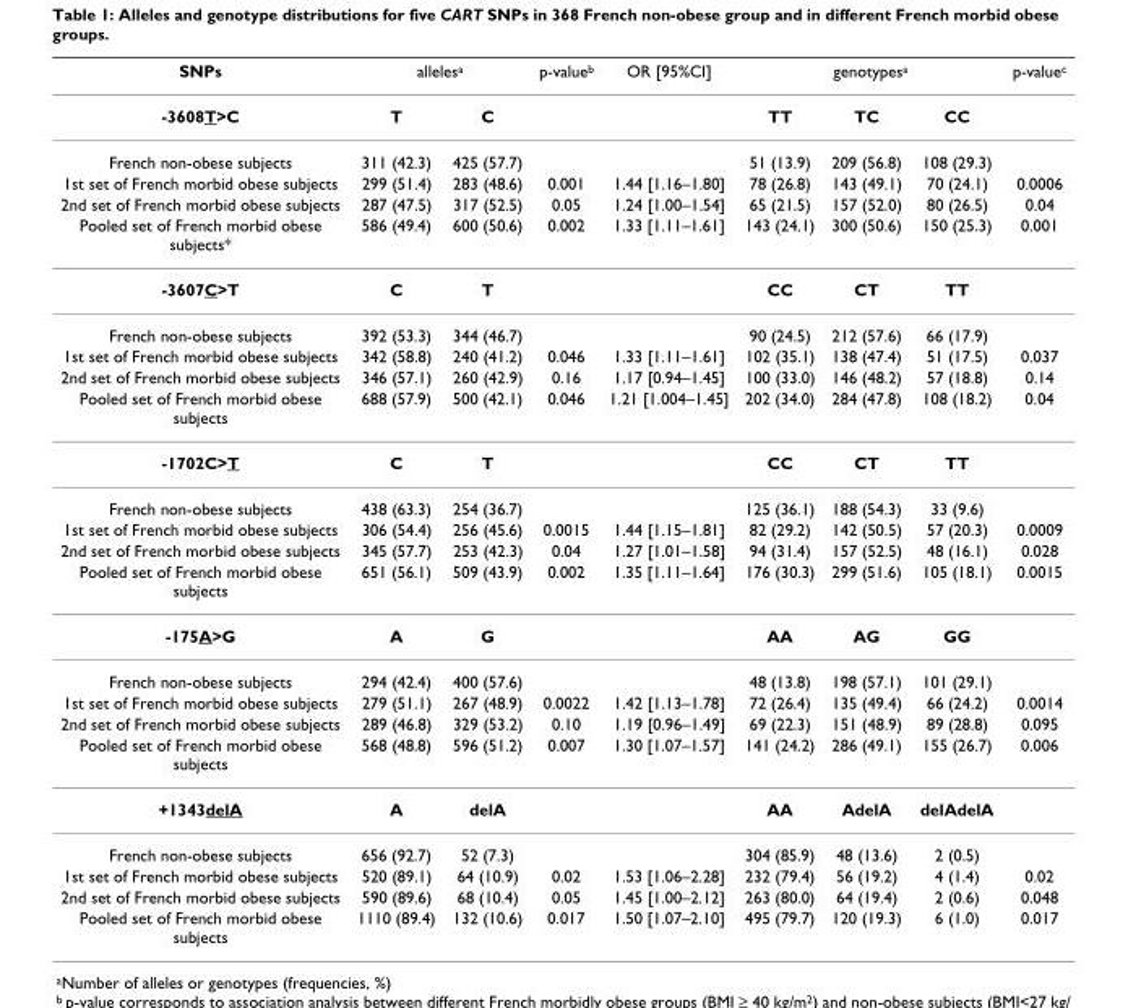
<table><thead><tr><td rowspan="2">SNPs -3608T&gt;C</td><td colspan="2">alleles<sup>a</sup></td><td rowspan="2">p-value<sup>b</sup></td><td rowspan="2">OR [95%CI]</td><td colspan="3">genotypes<sup>a</sup></td><td rowspan="2">p-value<sup>c</sup></td></tr><tr><td>T</td><td>C</td><td>TT</td><td>TC</td><td>CC</td></tr></thead><tbody><tr><td>French non-obese subjects</td><td>311 (42.3)</td><td>425 (57.7)</td><td></td><td></td><td>51 (13.9)</td><td>209 (56.8)</td><td>108 (29.3)</td><td></td></tr><tr><td>1st set of French morbid obese subjects</td><td>299 (51.4)</td><td>283 (48.6)</td><td>0.001</td><td>1.44 [1.16–1.80]</td><td>78 (26.8)</td><td>143 (49.1)</td><td>70 (24.1)</td><td>0.0006</td></tr><tr><td>2nd set of French morbid obese subjects</td><td>287 (47.5)</td><td>317 (52.5)</td><td>0.05</td><td>1.24 [1.00–1.54]</td><td>65 (21.5)</td><td>157 (52.0)</td><td>80 (26.5)</td><td>0.04</td></tr><tr><td>Pooled set of French morbid obese subjects*</td><td>586 (49.4)</td><td>600 (50.6)</td><td>0.002</td><td>1.33 [1.11–1.61]</td><td>143 (24.1)</td><td>300 (50.6)</td><td>150 (25.3)</td><td>0.001</td></tr><tr><td>-3607C&gt;T</td><td>C</td><td>T</td><td></td><td></td><td>CC</td><td>CT</td><td>TT</td><td></td></tr><tr><td>French non-obese subjects</td><td>392 (53.3)</td><td>344 (46.7)</td><td></td><td></td><td>90 (24.5)</td><td>212 (57.6)</td><td>66 (17.9)</td><td></td></tr><tr><td>1st set of French morbid obese subjects</td><td>342 (58.8)</td><td>240 (41.2)</td><td>0.046</td><td>1.33 [1.11–1.61]</td><td>102 (35.1)</td><td>138 (47.4)</td><td>51 (17.5)</td><td>0.037</td></tr><tr><td>2nd set of French morbid obese subjects</td><td>346 (57.1)</td><td>260 (42.9)</td><td>0.16</td><td>1.17 [0.94–1.45]</td><td>100 (33.0)</td><td>146 (48.2)</td><td>57 (18.8)</td><td>0.14</td></tr><tr><td>Pooled set of French morbid obese subjects</td><td>688 (57.9)</td><td>500 (42.1)</td><td>0.046</td><td>1.21 [1.004–1.45]</td><td>202 (34.0)</td><td>284 (47.8)</td><td>108 (18.2)</td><td>0.04</td></tr><tr><td>-1702C&gt;T</td><td>C</td><td>T</td><td></td><td></td><td>CC</td><td>CT</td><td>TT</td><td></td></tr><tr><td>French non-obese subjects</td><td>438 (63.3)</td><td>254 (36.7)</td><td></td><td></td><td>125 (36.1)</td><td>188 (54.3)</td><td>33 (9.6)</td><td></td></tr><tr><td>1st set of French morbid obese subjects</td><td>306 (54.4)</td><td>256 (45.6)</td><td>0.0015</td><td>1.44 [1.15–1.81]</td><td>82 (29.2)</td><td>142 (50.5)</td><td>57 (20.3)</td><td>0.0009</td></tr><tr><td>2nd set of French morbid obese subjects</td><td>345 (57.7)</td><td>253 (42.3)</td><td>0.04</td><td>1.27 [1.01–1.58]</td><td>94 (31.4)</td><td>157 (52.5)</td><td>48 (16.1)</td><td>0.028</td></tr><tr><td>Pooled set of French morbid obese subjects</td><td>651 (56.1)</td><td>509 (43.9)</td><td>0.002</td><td>1.35 [1.11–1.64]</td><td>176 (30.3)</td><td>299 (51.6)</td><td>105 (18.1)</td><td>0.0015</td></tr><tr><td>-175A&gt;G</td><td>A</td><td>G</td><td></td><td></td><td>AA</td><td>AG</td><td>GG</td><td></td></tr><tr><td>French non-obese subjects</td><td>294 (42.4)</td><td>400 (57.6)</td><td></td><td></td><td>48 (13.8)</td><td>198 (57.1)</td><td>101 (29.1)</td><td></td></tr><tr><td>1st set of French morbid obese subjects</td><td>279 (51.1)</td><td>267 (48.9)</td><td>0.0022</td><td>1.42 [1.13–1.78]</td><td>72 (26.4)</td><td>135 (49.4)</td><td>66 (24.2)</td><td>0.0014</td></tr><tr><td>2nd set of French morbid obese subjects</td><td>289 (46.8)</td><td>329 (53.2)</td><td>0.10</td><td>1.19 [0.96–1.49]</td><td>69 (22.3)</td><td>151 (48.9)</td><td>89 (28.8)</td><td>0.095</td></tr><tr><td>Pooled set of French morbid obese subjects</td><td>568 (48.8)</td><td>596 (51.2)</td><td>0.007</td><td>1.30 [1.07–1.57]</td><td>141 (24.2)</td><td>286 (49.1)</td><td>155 (26.7)</td><td>0.006</td></tr><tr><td>+1343delA</td><td>A</td><td>delA</td><td></td><td></td><td>AA</td><td>AdelA</td><td>delAdelA</td><td></td></tr><tr><td>French non-obese subjects</td><td>656 (92.7)</td><td>52 (7.3)</td><td></td><td></td><td>304 (85.9)</td><td>48 (13.6)</td><td>2 (0.5)</td><td></td></tr><tr><td>1st set of French morbid obese subjects</td><td>520 (89.1)</td><td>64 (10.9)</td><td>0.02</td><td>1.53 [1.06–2.28]</td><td>232 (79.4)</td><td>56 (19.2)</td><td>4 (1.4)</td><td>0.02</td></tr><tr><td>2nd set of French morbid obese subjects</td><td>590 (89.6)</td><td>68 (10.4)</td><td>0.05</td><td>1.45 [1.00–2.12]</td><td>263 (80.0)</td><td>64 (19.4)</td><td>2 (0.6)</td><td>0.048</td></tr><tr><td>Pooled set of French morbid obese subjects</td><td>1110 (89.4)</td><td>132 (10.6)</td><td>0.017</td><td>1.50 [1.07–2.10]</td><td>495 (79.7)</td><td>120 (19.3)</td><td>6 (1.0)</td><td>0.017</td></tr></tbody></table>